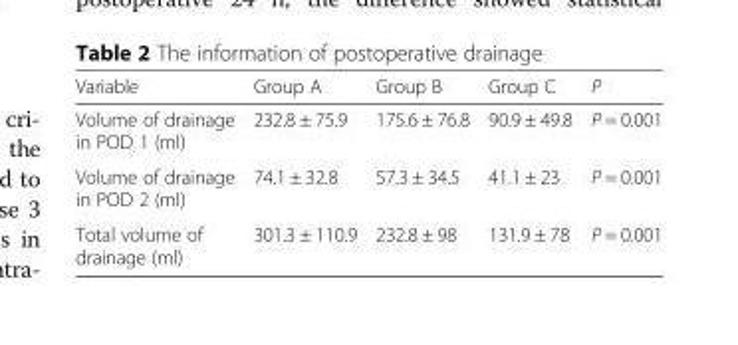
<table><thead><tr><td>Variable</td><td>Group A</td><td>Group B</td><td>Group C</td><td>P</td></tr></thead><tbody><tr><td>Volume of drainage in POD 1 (ml)</td><td>232.8 ± 75.9</td><td>175.6 ± 76.8</td><td>90.9 ± 49.8</td><td>P = 0.001</td></tr><tr><td>Volume of drainage in POD 2 (ml)</td><td>74.1 ± 32.8</td><td>57.3 ± 34.5</td><td>41.1 ± 23</td><td>P = 0.001</td></tr><tr><td>Total volume of drainage (ml)</td><td>301.3 ± 110.9</td><td>232.8 ± 98</td><td>131.9 ± 78</td><td>P = 0.001</td></tr></tbody></table>